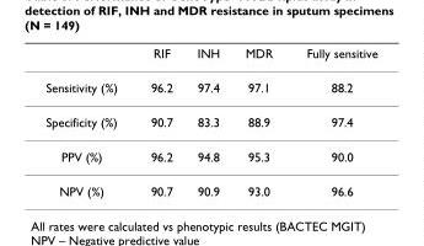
<table><thead><tr><td></td><td>RIF</td><td>INH</td><td>MDR</td><td>Fully sensitive</td></tr></thead><tbody><tr><td>Sensitivity (%)</td><td>96.2</td><td>97.4</td><td>97.1</td><td>88.2</td></tr><tr><td>Specificity (%)</td><td>90.7</td><td>83.3</td><td>88.9</td><td>97.4</td></tr><tr><td>PPV (%)</td><td>96.2</td><td>94.8</td><td>95.3</td><td>90.0</td></tr><tr><td>NPV (%)</td><td>90.7</td><td>90.9</td><td>93.0</td><td>96.6</td></tr></tbody></table>